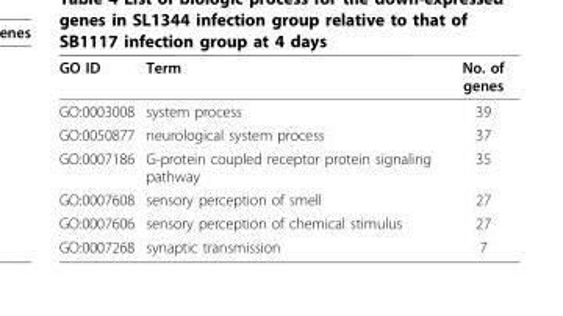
<table><thead><tr><td>GO ID</td><td>Term</td><td>No. of genes</td></tr></thead><tbody><tr><td>GO:0003008</td><td>system process</td><td>39</td></tr><tr><td>GO:0050877</td><td>neurological system process</td><td>37</td></tr><tr><td>GO:0007186</td><td>G-protein coupled receptor protein signaling pathway</td><td>35</td></tr><tr><td>GO:0007608</td><td>sensory perception of smell</td><td>27</td></tr><tr><td>GO:0007606</td><td>sensory perception of chemical stimulus</td><td>27</td></tr><tr><td>GO:0007268</td><td>synaptic transmission</td><td>7</td></tr></tbody></table>